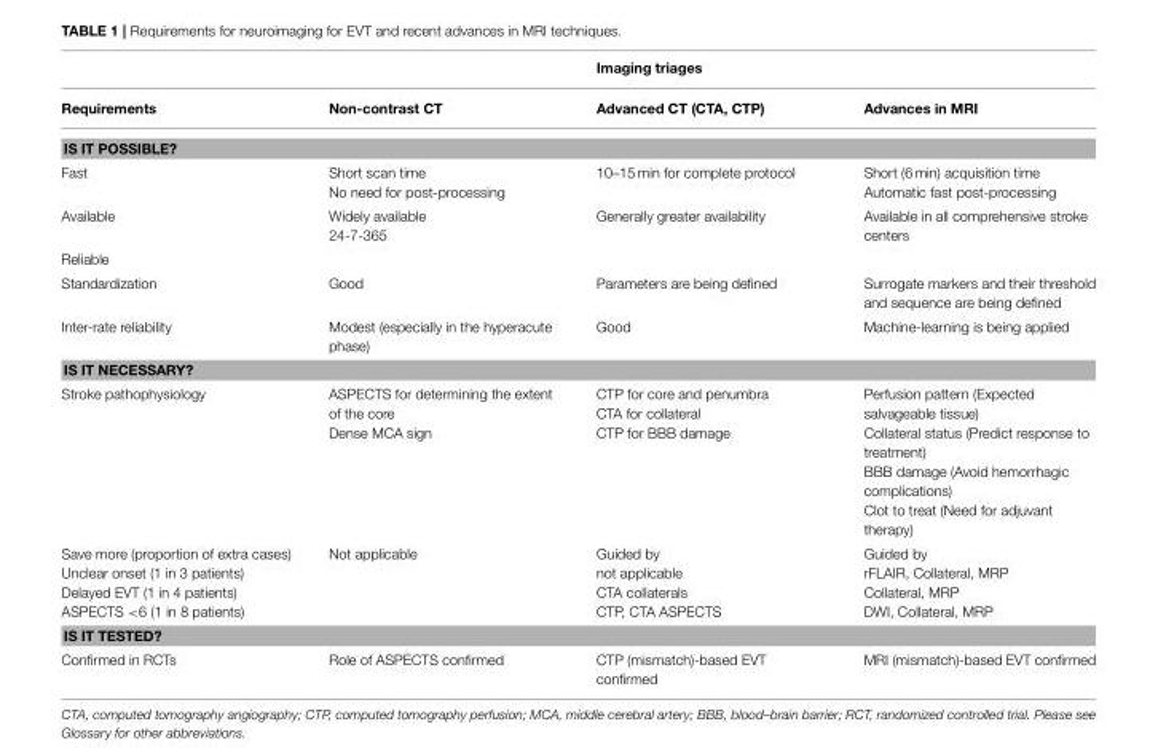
<table><thead><tr><td rowspan="2">Requirements</td><td rowspan="2">Non-contrast CT</td><td rowspan="2">Imaging triages Advanced CT (CTA, CTP)</td><td rowspan="2">Advances in MRI</td></tr><tr></tr></thead><tbody><tr><td colspan="4">IS IT POSSIBLE?</td></tr><tr><td>Fast</td><td>Short scan time No need for post-processing</td><td>10–15 min for complete protocol</td><td>Short (6 min) acquisition time Automatic fast post-processing</td></tr><tr><td>Available</td><td>Widely available 24-7-365</td><td>Generally greater availability</td><td>Available in all comprehensive stroke centers</td></tr><tr><td colspan="4">Reliable</td></tr><tr><td>Standardization</td><td>Good</td><td>Parameters are being defined</td><td>Surrogate markers and their threshold and sequence are being defined</td></tr><tr><td>Inter-rate reliability</td><td>Modest (especially in the hyperacute phase)</td><td>Good</td><td>Machine-learning is being applied</td></tr><tr><td colspan="4">IS IT NECESSARY?</td></tr><tr><td>Stroke pathophysiology</td><td>ASPECTS for determining the extent of the core Dense MCA sign</td><td>CTP for core and penumbra CTA for collateral CTP for BBB damage</td><td>Perfusion pattern (Expected salvageable tissue) Collateral status (Predict response to treatment) BBB damage (Avoid hemorrhagic complications) Clot to treat (Need for adjuvant therapy)</td></tr><tr><td>Save more (proportion of extra cases) Unclear onset (1 in 3 patients) Delayed EVT (1 in 4 patients) ASPECTS &lt;6 (1 in 8 patients)</td><td>Not applicable</td><td>Guided by not applicable CTA collaterals CTP, CTA ASPECTS</td><td>Guided by rFLAIR, Collateral, MRP Collateral, MRP DWI, Collateral, MRP</td></tr><tr><td colspan="4">IS IT TESTED?</td></tr><tr><td>Confirmed in RCTs</td><td>Role of ASPECTS confirmed</td><td>CTP (mismatch)-based EVT confirmed</td><td>MRI (mismatch)-based EVT confirmed</td></tr></tbody></table>